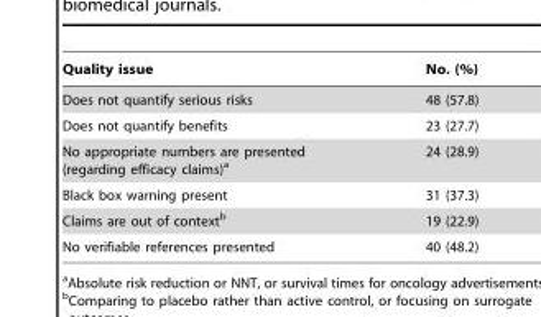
<table><thead><tr><td>Quality issue</td><td>No. (%)</td></tr></thead><tbody><tr><td>Does not quantify serious risks</td><td>48 (57.8)</td></tr><tr><td>Does not quantify benefits</td><td>23 (27.7)</td></tr><tr><td>No appropriate numbers are presented (regarding efficacy claims)<sup>a</sup></td><td>24 (28.9)</td></tr><tr><td>Black box warning present</td><td>31 (37.3)</td></tr><tr><td>Claims are out of context<sup>b</sup></td><td>19 (22.9)</td></tr><tr><td>No verifiable references presented</td><td>40 (48.2)</td></tr></tbody></table>